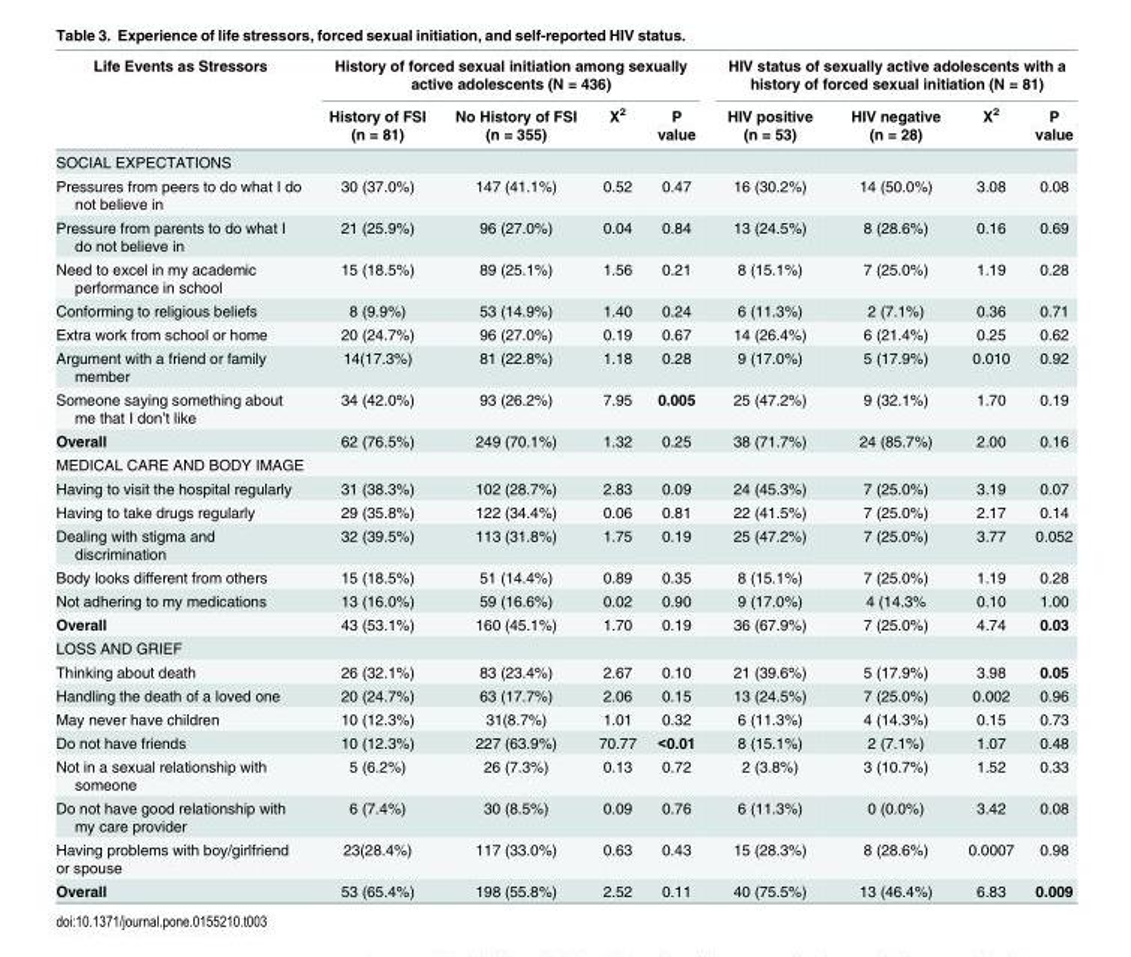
<table><thead><tr><td rowspan="2">Life Events as Stressors</td><td colspan="4">History of forced sexual initiation among sexually active adolescents (N = 436)</td><td colspan="4">HIV status of sexually active adolescents with a history of forced sexual initiation (N = 81)</td></tr><tr><td>History of FSI (n = 81)</td><td>No History of FSI (n = 355)</td><td>X<sup>2</sup></td><td>P value</td><td>HIV positive (n = 53)</td><td>HIV negative (n = 28)</td><td>X<sup>2</sup></td><td>P value</td></tr></thead><tbody><tr><td colspan="9">SOCIAL EXPECTATIONS</td></tr><tr><td>Pressures from peers to do what I do not believe in</td><td>30 (37.0%)</td><td>147 (41.1%)</td><td>0.52</td><td>0.47</td><td>16 (30.2%)</td><td>14 (50.0%)</td><td>3.08</td><td>0.08</td></tr><tr><td>Pressure from parents to do what I do not believe in</td><td>21 (25.9%)</td><td>96 (27.0%)</td><td>0.04</td><td>0.84</td><td>13 (24.5%)</td><td>8 (28.6%)</td><td>0.16</td><td>0.69</td></tr><tr><td>Need to excel in my academic performance in school</td><td>15 (18.5%)</td><td>89 (25.1%)</td><td>1.56</td><td>0.21</td><td>8 (15.1%)</td><td>7 (25.0%)</td><td>1.19</td><td>0.28</td></tr><tr><td>Conforming to religious beliefs</td><td>8 (9.9%)</td><td>53 (14.9%)</td><td>1.40</td><td>0.24</td><td>6 (11.3%)</td><td>2 (7.1%)</td><td>0.36</td><td>0.71</td></tr><tr><td>Extra work from school or home</td><td>20 (24.7%)</td><td>96 (27.0%)</td><td>0.19</td><td>0.67</td><td>14 (26.4%)</td><td>6 (21.4%)</td><td>0.25</td><td>0.62</td></tr><tr><td>Argument with a friend or family member</td><td>14(17.3%)</td><td>81 (22.8%)</td><td>1.18</td><td>0.28</td><td>9 (17.0%)</td><td>5 (17.9%)</td><td>0.010</td><td>0.92</td></tr><tr><td>Someone saying something about me that I don’t like</td><td>34 (42.0%)</td><td>93 (26.2%)</td><td>7.95</td><td>0.005</td><td>25 (47.2%)</td><td>9 (32.1%)</td><td>1.70</td><td>0.19</td></tr><tr><td>Overall</td><td>62 (76.5%)</td><td>249 (70.1%)</td><td>1.32</td><td>0.25</td><td>38 (71.7%)</td><td>24 (85.7%)</td><td>2.00</td><td>0.16</td></tr><tr><td colspan="9">MEDICAL CARE AND BODY IMAGE</td></tr><tr><td>Having to visit the hospital regularly</td><td>31 (38.3%)</td><td>102 (28.7%)</td><td>2.83</td><td>0.09</td><td>24 (45.3%)</td><td>7 (25.0%)</td><td>3.19</td><td>0.07</td></tr><tr><td>Having to take drugs regularly</td><td>29 (35.8%)</td><td>122 (34.4%)</td><td>0.06</td><td>0.81</td><td>22 (41.5%)</td><td>7 (25.0%)</td><td>2.17</td><td>0.14</td></tr><tr><td>Dealing with stigma and discrimination</td><td>32 (39.5%)</td><td>113 (31.8%)</td><td>1.75</td><td>0.19</td><td>25 (47.2%)</td><td>7 (25.0%)</td><td>3.77</td><td>0.052</td></tr><tr><td>Body looks different from others</td><td>15 (18.5%)</td><td>51 (14.4%)</td><td>0.89</td><td>0.35</td><td>8 (15.1%)</td><td>7 (25.0%)</td><td>1.19</td><td>0.28</td></tr><tr><td>Not adhering to my medications</td><td>13 (16.0%)</td><td>59 (16.6%)</td><td>0.02</td><td>0.90</td><td>9 (17.0%)</td><td>4 (14.3%</td><td>0.10</td><td>1.00</td></tr><tr><td>Overall</td><td>43 (53.1%)</td><td>160 (45.1%)</td><td>1.70</td><td>0.19</td><td>36 (67.9%)</td><td>7 (25.0%)</td><td>4.74</td><td>0.03</td></tr><tr><td colspan="9">LOSS AND GRIEF</td></tr><tr><td>Thinking about death</td><td>26 (32.1%)</td><td>83 (23.4%)</td><td>2.67</td><td>0.10</td><td>21 (39.6%)</td><td>5 (17.9%)</td><td>3.98</td><td>0.05</td></tr><tr><td>Handling the death of a loved one</td><td>20 (24.7%)</td><td>63 (17.7%)</td><td>2.06</td><td>0.15</td><td>13 (24.5%)</td><td>7 (25.0%)</td><td>0.002</td><td>0.96</td></tr><tr><td>May never have children</td><td>10 (12.3%)</td><td>31(8.7%)</td><td>1.01</td><td>0.32</td><td>6 (11.3%)</td><td>4 (14.3%)</td><td>0.15</td><td>0.73</td></tr><tr><td>Do not have friends</td><td>10 (12.3%)</td><td>227 (63.9%)</td><td>70.77</td><td>&lt;0.01</td><td>8 (15.1%)</td><td>2 (7.1%)</td><td>1.07</td><td>0.48</td></tr><tr><td>Not in a sexual relationship with someone</td><td>5 (6.2%)</td><td>26 (7.3%)</td><td>0.13</td><td>0.72</td><td>2 (3.8%)</td><td>3 (10.7%)</td><td>1.52</td><td>0.33</td></tr><tr><td>Do not have good relationship with my care provider</td><td>6 (7.4%)</td><td>30 (8.5%)</td><td>0.09</td><td>0.76</td><td>6 (11.3%)</td><td>0 (0.0%)</td><td>3.42</td><td>0.08</td></tr><tr><td>Having problems with boy/girlfriend or spouse</td><td>23(28.4%)</td><td>117 (33.0%)</td><td>0.63</td><td>0.43</td><td>15 (28.3%)</td><td>8 (28.6%)</td><td>0.0007</td><td>0.98</td></tr><tr><td>Overall</td><td>53 (65.4%)</td><td>198 (55.8%)</td><td>2.52</td><td>0.11</td><td>40 (75.5%)</td><td>13 (46.4%)</td><td>6.83</td><td>0.009</td></tr></tbody></table>